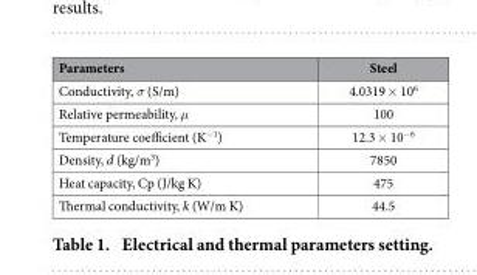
<table><thead><tr><td>Parameters</td><td>Steel</td></tr></thead><tbody><tr><td>Conductivity, σ (S/m)</td><td>4.0319 × 10<sup>6</sup></td></tr><tr><td>Relative permeability, μ</td><td>100</td></tr><tr><td>Temperature coefficient (K<sup>−1</sup>)</td><td>12.3 × 10<sup>−6</sup></td></tr><tr><td>Density, d (kg/m<sup>3</sup>)</td><td>7850</td></tr><tr><td>Heat capacity, Cp (J/kg K)</td><td>475</td></tr><tr><td>Thermal conductivity, k (W/m K)</td><td>44.5</td></tr></tbody></table>